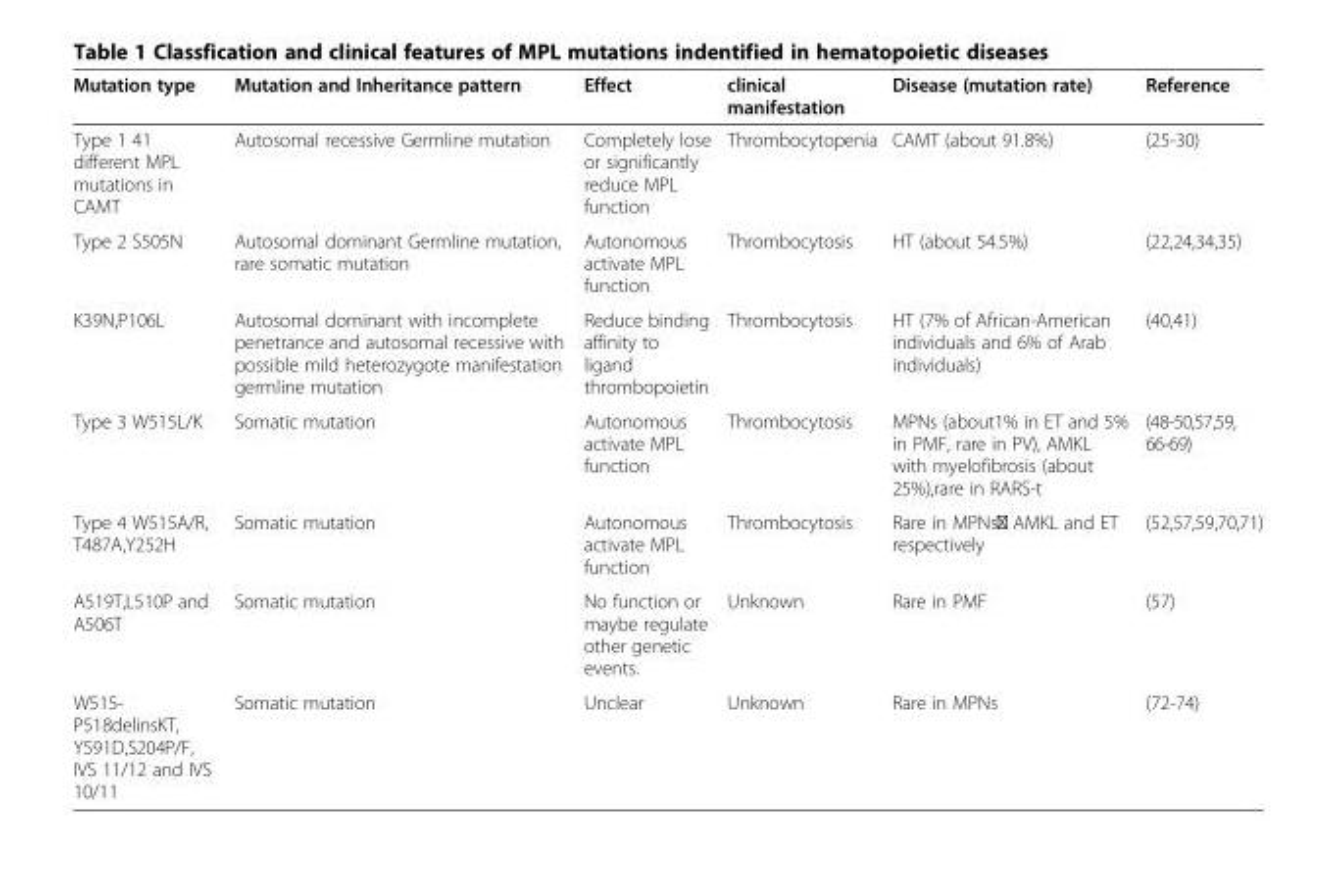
<table><thead><tr><td>Mutation type</td><td>Mutation and Inheritance pattern</td><td>Effect</td><td>clinical manifestation</td><td>Disease (mutation rate)</td><td>Reference</td></tr></thead><tbody><tr><td>Type 1 41 different MPL mutations in CAMT</td><td>Autosomal recessive Germline mutation</td><td>Completely lose or significantly reduce MPL function</td><td>Thrombocytopenia</td><td>CAMT (about 91.8%)</td><td>(25-30)</td></tr><tr><td>Type 2 S505N</td><td>Autosomal dominant Germline mutation, rare somatic mutation</td><td>Autonomous activate MPL function</td><td>Thrombocytosis</td><td>HT (about 54.5%)</td><td>(22,24,34,35)</td></tr><tr><td>K39N,P106L</td><td>Autosomal dominant with incomplete penetrance and autosomal recessive with possible mild heterozygote manifestation germline mutation</td><td>Reduce binding affinity to ligand thrombopoietin</td><td>Thrombocytosis</td><td>HT (7% of African-American individuals and 6% of Arab individuals)</td><td>(40,41)</td></tr><tr><td>Type 3 W515L/K</td><td>Somatic mutation</td><td>Autonomous activate MPL function</td><td>Thrombocytosis</td><td>MPNs (about1% in ET and 5% in PMF, rare in PV), AMKL with myelofibrosis (about 25%),rare in RARS-t</td><td>(48-50,57,59, 66-69)</td></tr><tr><td>Type 4 W515A/R, T487A,Y252H</td><td>Somatic mutation</td><td>Autonomous activate MPL function</td><td>Thrombocytosis</td><td>Rare in MPNs、 AMKL and ET respectively</td><td>(52,57,59,70,71)</td></tr><tr><td>A519T,L510P and A506T</td><td>Somatic mutation</td><td>No function or maybe regulate other genetic events.</td><td>Unknown</td><td>Rare in PMF</td><td>(57)</td></tr><tr><td>W515- P518delinsKT, Y591D,S204P/F, IVS 11/12 and IVS 10/11</td><td>Somatic mutation</td><td>Unclear</td><td>Unknown</td><td>Rare in MPNs</td><td>(72-74)</td></tr></tbody></table>